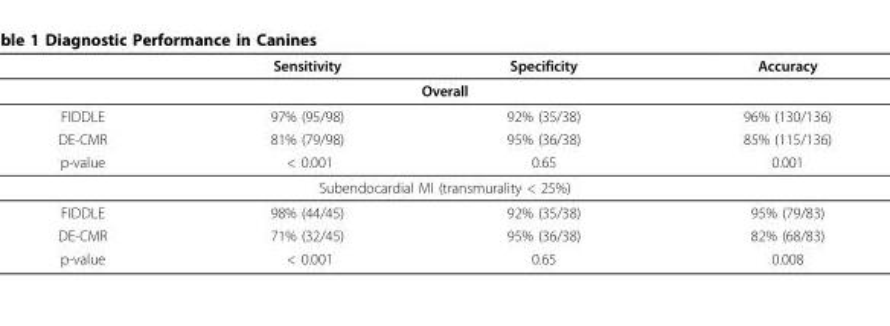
<table><thead><tr><td></td><td>Sensitivity</td><td>Specificity</td><td>Accuracy</td></tr><tr><td colspan="4">Overall</td></tr></thead><tbody><tr><td>FIDDLE</td><td>97% (95/98)</td><td>92% (35/38)</td><td>96% (130/136)</td></tr><tr><td>DE-CMR</td><td>81% (79/98)</td><td>95% (36/38)</td><td>85% (115/136)</td></tr><tr><td>p-value</td><td>&lt; 0.001</td><td>0.65</td><td>0.001</td></tr><tr><td colspan="4">Subendocardial MI (transmurality &lt; 25%)</td></tr><tr><td>FIDDLE</td><td>98% (44/45)</td><td>92% (35/38)</td><td>95% (79/83)</td></tr><tr><td>DE-CMR</td><td>71% (32/45)</td><td>95% (36/38)</td><td>82% (68/83)</td></tr><tr><td>p-value</td><td>&lt; 0.001</td><td>0.65</td><td>0.008</td></tr></tbody></table>